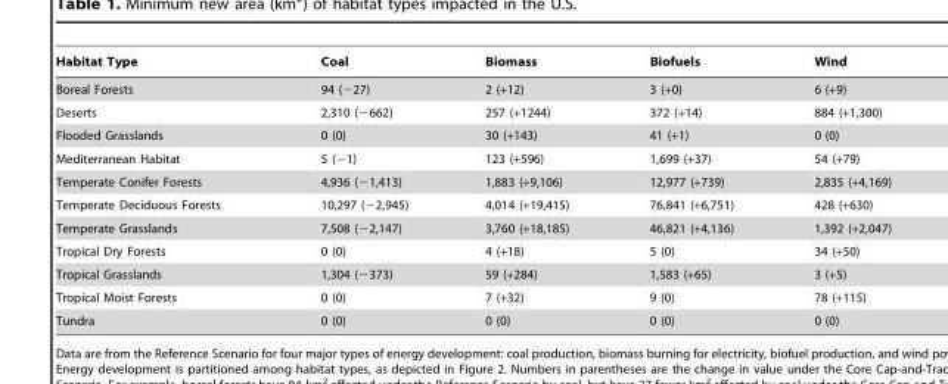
<table><thead><tr><td>Habitat Type</td><td>Coal</td><td>Biomass</td><td>Biofuels</td><td>Wind</td></tr></thead><tbody><tr><td>Boreal Forests</td><td>94 (−27)</td><td>2 (+12)</td><td>3 (+0)</td><td>6 (+9)</td></tr><tr><td>Deserts</td><td>2,310 (−662)</td><td>257 (+1244)</td><td>372 (+14)</td><td>884 (+1,300)</td></tr><tr><td>Flooded Grasslands</td><td>0 (0)</td><td>30 (+143)</td><td>41 (+1)</td><td>0 (0)</td></tr><tr><td>Mediterranean Habitat</td><td>5 (−1)</td><td>123 (+596)</td><td>1,699 (+37)</td><td>54 (+79)</td></tr><tr><td>Temperate Conifer Forests</td><td>4,936 (−1,413)</td><td>1,883 (+9,106)</td><td>12,977 (+739)</td><td>2,835 (+4,169)</td></tr><tr><td>Temperate Deciduous Forests</td><td>10,297 (−2,945)</td><td>4,014 (+19,415)</td><td>76,841 (+6,751)</td><td>428 (+630)</td></tr><tr><td>Temperate Grasslands</td><td>7,508 (−2,147)</td><td>3,760 (+18,185)</td><td>46,821 (+4,136)</td><td>1,392 (+2,047)</td></tr><tr><td>Tropical Dry Forests</td><td>0 (0)</td><td>4 (+18)</td><td>5 (0)</td><td>34 (+50)</td></tr><tr><td>Tropical Grasslands</td><td>1,304 (−373)</td><td>59 (+284)</td><td>1,583 (+65)</td><td>3 (+5)</td></tr><tr><td>Tropical Moist Forests</td><td>0 (0)</td><td>7 (+32)</td><td>9 (0)</td><td>78 (+115)</td></tr><tr><td>Tundra</td><td>0 (0)</td><td>0 (0)</td><td>0 (0)</td><td>0 (0)</td></tr></tbody></table>